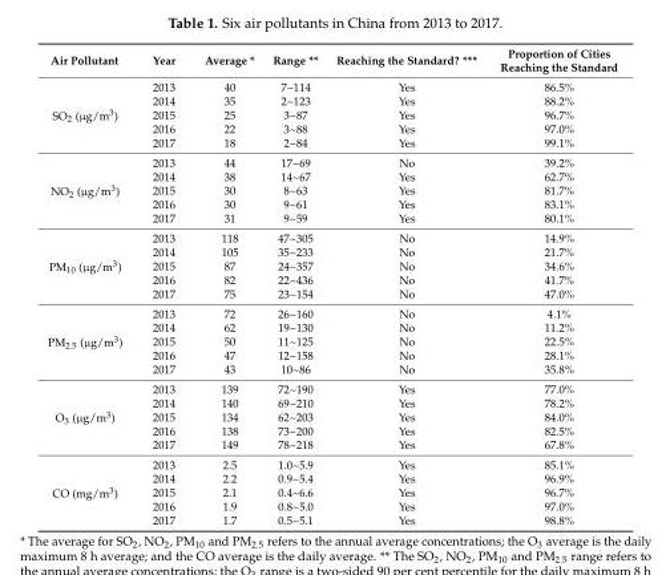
<table><thead><tr><td>Air Pollutant</td><td>Year</td><td>Average *</td><td>Range **</td><td>Reaching the Standard? ***</td><td>Proportion of Cities Reaching the Standard</td></tr></thead><tbody><tr><td rowspan="5">SO<sub>2</sub> (µg/m<sup>3</sup>)</td><td>2013</td><td>40</td><td>7~114</td><td>Yes</td><td>86.5%</td></tr><tr><td>2014</td><td>35</td><td>2~123</td><td>Yes</td><td>88.2%</td></tr><tr><td>2015</td><td>25</td><td>3~87</td><td>Yes</td><td>96.7%</td></tr><tr><td>2016</td><td>22</td><td>3~88</td><td>Yes</td><td>97.0%</td></tr><tr><td>2017</td><td>18</td><td>2~84</td><td>Yes</td><td>99.1%</td></tr><tr><td rowspan="5">NO<sub>2</sub> (µg/m<sup>3</sup>)</td><td>2013</td><td>44</td><td>17~69</td><td>No</td><td>39.2%</td></tr><tr><td>2014</td><td>38</td><td>14~67</td><td>Yes</td><td>62.7%</td></tr><tr><td>2015</td><td>30</td><td>8~63</td><td>Yes</td><td>81.7%</td></tr><tr><td>2016</td><td>30</td><td>9~61</td><td>Yes</td><td>83.1%</td></tr><tr><td>2017</td><td>31</td><td>9~59</td><td>Yes</td><td>80.1%</td></tr><tr><td rowspan="5">PM<sub>10</sub> (µg/m<sup>3</sup>)</td><td>2013</td><td>118</td><td>47~305</td><td>No</td><td>14.9%</td></tr><tr><td>2014</td><td>105</td><td>35~233</td><td>No</td><td>21.7%</td></tr><tr><td>2015</td><td>87</td><td>24~357</td><td>No</td><td>34.6%</td></tr><tr><td>2016</td><td>82</td><td>22~436</td><td>No</td><td>41.7%</td></tr><tr><td>2017</td><td>75</td><td>23~154</td><td>No</td><td>47.0%</td></tr><tr><td rowspan="5">PM<sub>2.5</sub> (µg/m<sup>3</sup>)</td><td>2013</td><td>72</td><td>26~160</td><td>No</td><td>4.1%</td></tr><tr><td>2014</td><td>62</td><td>19~130</td><td>No</td><td>11.2%</td></tr><tr><td>2015</td><td>50</td><td>11~125</td><td>No</td><td>22.5%</td></tr><tr><td>2016</td><td>47</td><td>12~158</td><td>No</td><td>28.1%</td></tr><tr><td>2017</td><td>43</td><td>10~86</td><td>No</td><td>35.8%</td></tr><tr><td rowspan="5">O<sub>3</sub> (µg/m<sup>3</sup>)</td><td>2013</td><td>139</td><td>72~190</td><td>Yes</td><td>77.0%</td></tr><tr><td>2014</td><td>140</td><td>69~210</td><td>Yes</td><td>78.2%</td></tr><tr><td>2015</td><td>134</td><td>62~203</td><td>Yes</td><td>84.0%</td></tr><tr><td>2016</td><td>138</td><td>73~200</td><td>Yes</td><td>82.5%</td></tr><tr><td>2017</td><td>149</td><td>78~218</td><td>Yes</td><td>67.8%</td></tr><tr><td rowspan="5">CO (mg/m<sup>3</sup>)</td><td>2013</td><td>2.5</td><td>1.0~5.9</td><td>Yes</td><td>85.1%</td></tr><tr><td>2014</td><td>2.2</td><td>0.9~5.4</td><td>Yes</td><td>96.9%</td></tr><tr><td>2015</td><td>2.1</td><td>0.4~6.6</td><td>Yes</td><td>96.7%</td></tr><tr><td>2016</td><td>1.9</td><td>0.8~5.0</td><td>Yes</td><td>97.0%</td></tr><tr><td>2017</td><td>1.7</td><td>0.5~5.1</td><td>Yes</td><td>98.8%</td></tr></tbody></table>